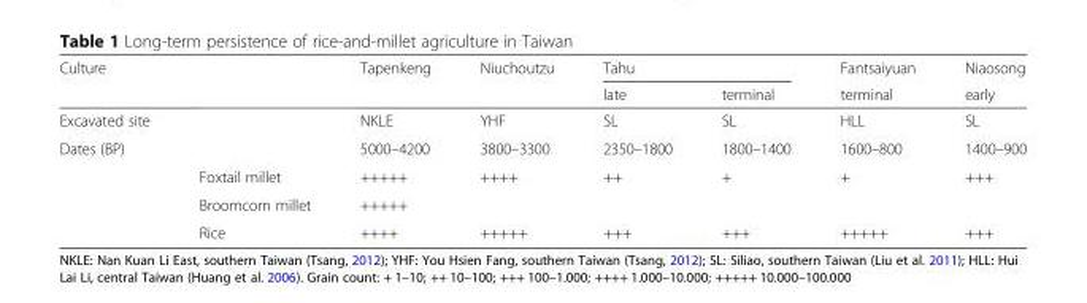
<table><thead><tr><td rowspan="2">Culture</td><td rowspan="2"></td><td rowspan="2">Tapenkeng</td><td rowspan="2">Niuchoutzu</td><td colspan="2">Tahu</td><td rowspan="2">Fantsaiyuan terminal</td><td rowspan="2">Niaosong early</td></tr><tr><td>late</td><td>terminal</td></tr></thead><tbody><tr><td>Excavated site</td><td></td><td>NKLE</td><td>YHF</td><td>SL</td><td>SL</td><td>HLL</td><td>SL</td></tr><tr><td rowspan="4">Dates (BP)</td><td></td><td>5000–4200</td><td>3800–3300</td><td>2350–1800</td><td>1800–1400</td><td>1600–800</td><td>1400–900</td></tr><tr><td>Foxtail millet</td><td>+++++</td><td rowspan="2">++++</td><td rowspan="2">++</td><td rowspan="2">+</td><td rowspan="2">+</td><td rowspan="2">+++</td></tr><tr><td>Broomcorn millet</td><td>+++++</td></tr><tr><td>Rice</td><td>++++</td><td>+++++</td><td>+++</td><td>+++</td><td>+++++</td><td>+++</td></tr></tbody></table>